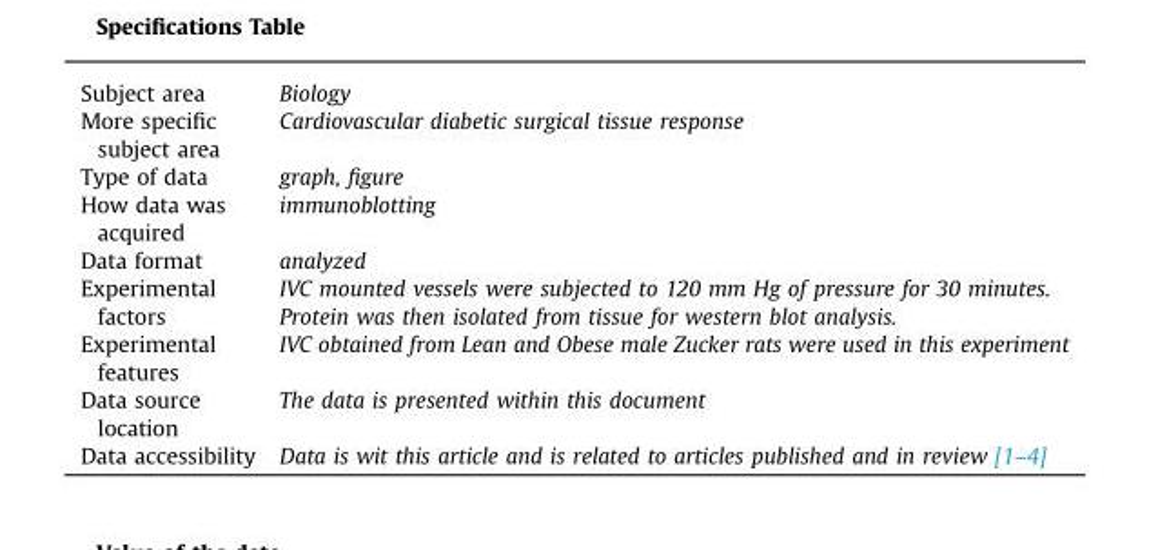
<table><tbody><tr><td>Subject area</td><td>Biology</td></tr><tr><td>More specific subject area</td><td>Cardiovascular diabetic surgical tissue response</td></tr><tr><td>Type of data</td><td>graph, figure</td></tr><tr><td>How data was acquired</td><td>immunoblotting</td></tr><tr><td>Data format</td><td>analyzed</td></tr><tr><td>Experimental factors</td><td>IVC mounted vessels were subjected to 120 mm Hg of pressure for 30 minutes. Protein was then isolated from tissue for western blot analysis.</td></tr><tr><td>Experimental features</td><td>IVC obtained from Lean and Obese male Zucker rats were used in this experiment</td></tr><tr><td>Data source location</td><td>The data is presented within this document</td></tr><tr><td>Data accessibility</td><td>Data is wit this article and is related to articles published and in review [1–4]</td></tr></tbody></table>